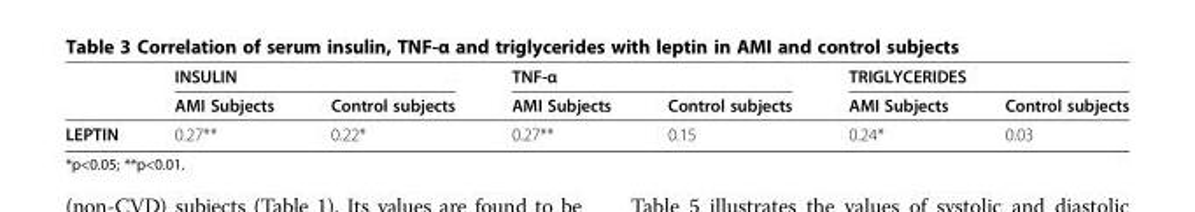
<table><thead><tr><td rowspan="2"></td><td colspan="2">INSULIN</td><td colspan="2">TNF-α</td><td colspan="2">TRIGLYCERIDES</td></tr><tr><td>AMI Subjects</td><td>Control subjects</td><td>AMI Subjects</td><td>Control subjects</td><td>AMI Subjects</td><td>Control subjects</td></tr></thead><tbody><tr><td>LEPTIN</td><td>0.27**</td><td>0.22*</td><td>0.27**</td><td>0.15</td><td>0.24*</td><td>0.03</td></tr></tbody></table>